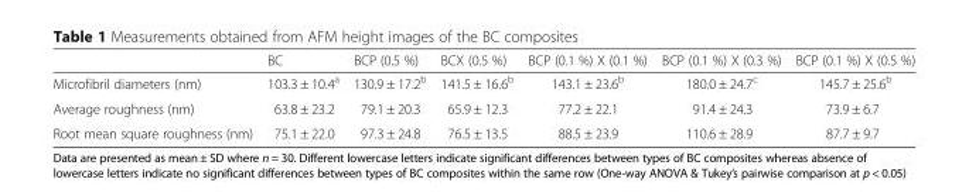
<table><thead><tr><td></td><td>BC</td><td>BCP (0.5 %)</td><td>BCX (0.5 %)</td><td>BCP (0.1 %) X (0.1 %)</td><td>BCP (0.1 %) X (0.3 %)</td><td>BCP (0.1 %) X (0.5 %)</td></tr></thead><tbody><tr><td>Microfibril diameters (nm)</td><td>103.3 ± 10.4<sup>a</sup></td><td>130.9 ± 17.2<sup>b</sup></td><td>141.5 ± 16.6<sup>b</sup></td><td>143.1 ± 23.6<sup>b</sup></td><td>180.0 ± 24.7<sup>c</sup></td><td>145.7 ± 25.6<sup>b</sup></td></tr><tr><td>Average roughness (nm)</td><td>63.8 ± 23.2</td><td>79.1 ± 20.3</td><td>65.9 ± 12.3</td><td>77.2 ± 22.1</td><td>91.4 ± 24.3</td><td>73.9 ± 6.7</td></tr><tr><td>Root mean square roughness (nm)</td><td>75.1 ± 22.0</td><td>97.3 ± 24.8</td><td>76.5 ± 13.5</td><td>88.5 ± 23.9</td><td>110.6 ± 28.9</td><td>87.7 ± 9.7</td></tr></tbody></table>